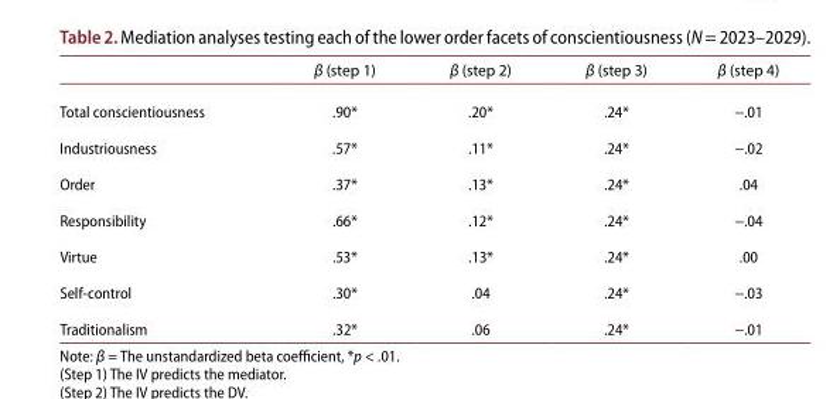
<table><thead><tr><td></td><td>β (step 1)</td><td>β (step 2)</td><td>β (step 3)</td><td>β (step 4)</td></tr></thead><tbody><tr><td>total conscientiousness</td><td>.90*</td><td>.20*</td><td>.24*</td><td>−.01</td></tr><tr><td>industriousness</td><td>.57*</td><td>.11*</td><td>.24*</td><td>−.02</td></tr><tr><td>order</td><td>.37*</td><td>.13*</td><td>.24*</td><td>.04</td></tr><tr><td>Responsibility</td><td>.66*</td><td>.12*</td><td>.24*</td><td>−.04</td></tr><tr><td>Virtue</td><td>.53*</td><td>.13*</td><td>.24*</td><td>.00</td></tr><tr><td>self-control</td><td>.30*</td><td>.04</td><td>.24*</td><td>−.03</td></tr><tr><td>traditionalism</td><td>.32*</td><td>.06</td><td>.24*</td><td>−.01</td></tr></tbody></table>